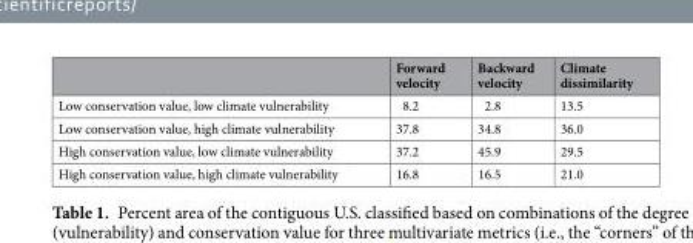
<table><thead><tr><td></td><td>Forward velocity</td><td>Backward velocity</td><td>Climate dissimilarity</td></tr></thead><tbody><tr><td>Low conservation value, low climate vulnerability</td><td>8.2</td><td>2.8</td><td>13.5</td></tr><tr><td>Low conservation value, high climate vulnerability</td><td>37.8</td><td>34.8</td><td>36.0</td></tr><tr><td>High conservation value, low climate vulnerability</td><td>37.2</td><td>45.9</td><td>29.5</td></tr><tr><td>High conservation value, high climate vulnerability</td><td>16.8</td><td>16.5</td><td>21.0</td></tr></tbody></table>